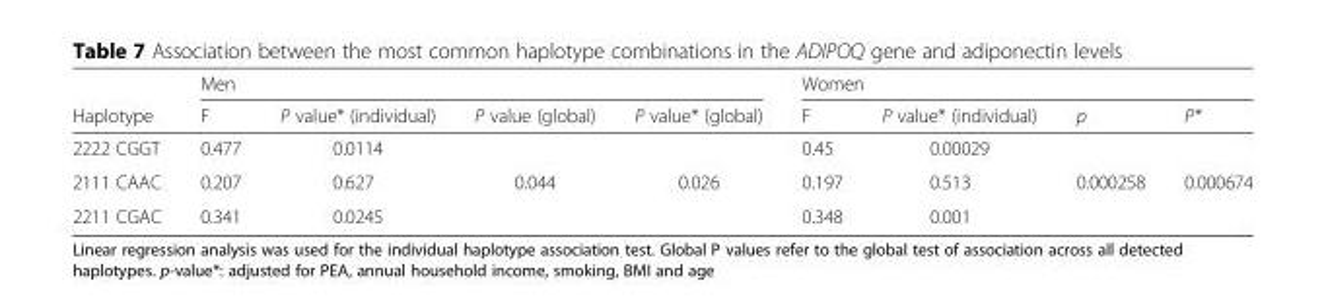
<table><thead><tr><td rowspan="2">Haplotype</td><td colspan="4">Men</td><td colspan="4">Women</td></tr><tr><td>F</td><td>P value* (individual)</td><td>P value (global)</td><td>P value* (global)</td><td>F</td><td>P value* (individual)</td><td>p</td><td>P*</td></tr></thead><tbody><tr><td>2222 CGGT</td><td>0.477</td><td>0.0114</td><td></td><td></td><td>0.45</td><td>0.00029</td><td></td><td></td></tr><tr><td>2111 CAAC</td><td>0.207</td><td>0.627</td><td>0.044</td><td>0.026</td><td>0.197</td><td>0.513</td><td>0.000258</td><td>0.000674</td></tr><tr><td>2211 CGAC</td><td>0.341</td><td>0.0245</td><td></td><td></td><td>0.348</td><td>0.001</td><td></td><td></td></tr></tbody></table>